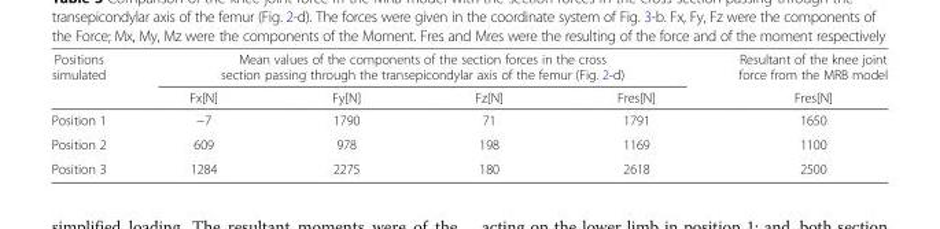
<table><thead><tr><td rowspan="2">Positions simulated</td><td colspan="4">Mean values of the components of the section forces in the cross section passing through the transepicondylar axis of the femur (Fig. 2-d)</td><td rowspan="2">Resultant of the knee joint force from the MRB model Fres[N]</td></tr><tr><td>Fx[N]</td><td>Fy[N]</td><td>Fz[N]</td><td>Fres[N]</td></tr></thead><tbody><tr><td>Position 1</td><td>−7</td><td>1790</td><td>71</td><td>1791</td><td>1650</td></tr><tr><td>Position 2</td><td>609</td><td>978</td><td>198</td><td>1169</td><td>1100</td></tr><tr><td>Position 3</td><td>1284</td><td>2275</td><td>180</td><td>2618</td><td>2500</td></tr></tbody></table>